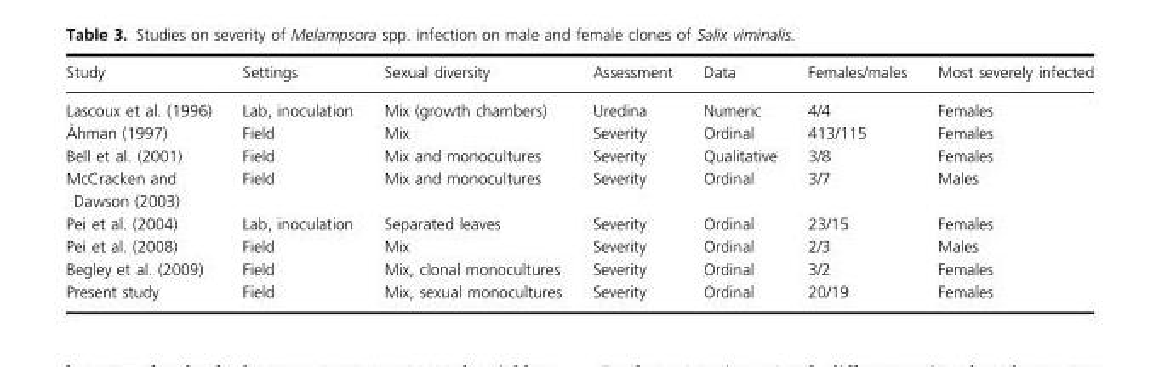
<table><thead><tr><td>Study</td><td>Settings</td><td>Sexual diversity</td><td>Assessment</td><td>Data</td><td>Females/males</td><td>Most severely infected</td></tr></thead><tbody><tr><td>Lascoux et al. (1996)</td><td>Lab, inoculation</td><td>Mix (growth chambers)</td><td>Uredina</td><td>Numeric</td><td>4/4</td><td>Females</td></tr><tr><td>�Ahman (1997)</td><td>Field</td><td>Mix</td><td>Severity</td><td>Ordinal</td><td>413/115</td><td>Females</td></tr><tr><td>Bell et al. (2001)</td><td>Field</td><td>Mix and monocultures</td><td>Severity</td><td>Qualitative</td><td>3/8</td><td>Females</td></tr><tr><td>McCracken and Dawson (2003)</td><td>Field</td><td>Mix and monocultures</td><td>Severity</td><td>Ordinal</td><td>3/7</td><td>Males</td></tr><tr><td>Pei et al. (2004)</td><td>Lab, inoculation</td><td>Separated leaves</td><td>Severity</td><td>Ordinal</td><td>23/15</td><td>Females</td></tr><tr><td>Pei et al. (2008)</td><td>Field</td><td>Mix</td><td>Severity</td><td>Ordinal</td><td>2/3</td><td>Males</td></tr><tr><td>Begley et al. (2009)</td><td>Field</td><td>Mix, clonal monocultures</td><td>Severity</td><td>Ordinal</td><td>3/2</td><td>Females</td></tr><tr><td>Present study</td><td>Field</td><td>Mix, sexual monocultures</td><td>Severity</td><td>Ordinal</td><td>20/19</td><td>Females</td></tr></tbody></table>